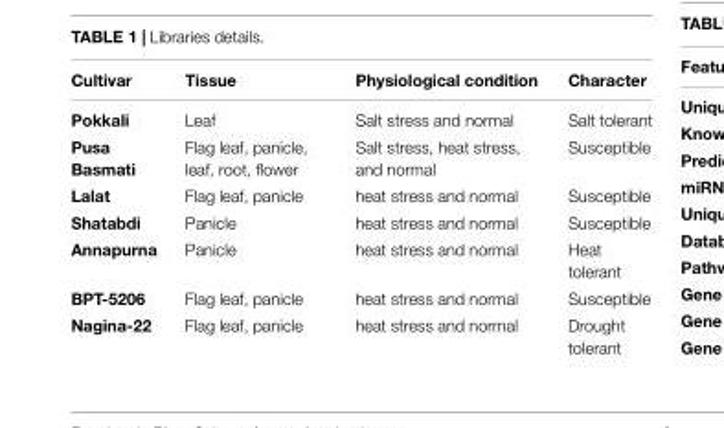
<table><thead><tr><td>Cultivar</td><td>Tissue</td><td>Physiological condition</td><td>Character</td></tr></thead><tbody><tr><td>Pokkali</td><td>Leaf</td><td>Salt stress and normal</td><td>Salt tolerant</td></tr><tr><td>Pusa Basmati</td><td>Flag leaf, panicle, leaf, root, flower</td><td>Salt stress, heat stress, and normal</td><td>Susceptible</td></tr><tr><td>Lalat</td><td>Flag leaf, panicle</td><td>heat stress and normal</td><td>Susceptible</td></tr><tr><td>Shatabdi</td><td>Panicle</td><td>heat stress and normal</td><td>Susceptible</td></tr><tr><td>Annapurna</td><td>Panicle</td><td>heat stress and normal</td><td>Heat tolerant</td></tr><tr><td>BPT-5206</td><td>Flag leaf, panicle</td><td>heat stress and normal</td><td>Susceptible</td></tr><tr><td>Nagina-22</td><td>Flag leaf, panicle</td><td>heat stress and normal</td><td>Drought tolerant</td></tr></tbody></table>